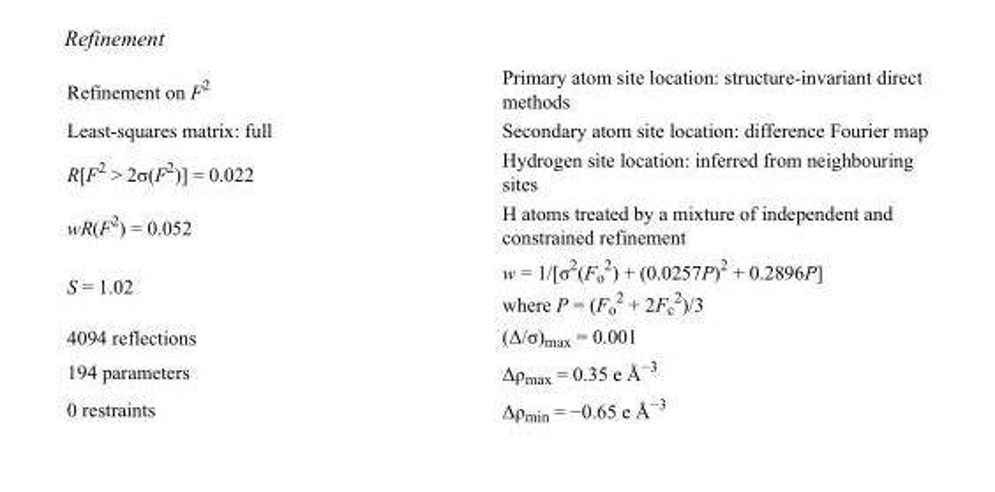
<table><tbody><tr><td>Refinement on F<sup>2</sup></td><td>Primary atom site location: structure-invariant direct methods</td></tr><tr><td>Least-squares matrix: full</td><td>Secondary atom site location: difference Fourier map</td></tr><tr><td>R[F<sup>2</sup> &gt; 2σ(F<sup>2</sup>)] = 0.022</td><td>Hydrogen site location: inferred from neighbouring sites</td></tr><tr><td>wR(F<sup>2</sup>) = 0.052</td><td>H atoms treated by a mixture of independent and constrained refinement</td></tr><tr><td>S = 1.02</td><td>w = 1/[σ<sup>2</sup>(F<sub>o</sub> <sup>2</sup>) + (0.0257P)<sup>2</sup> + 0.2896P] where P = (F<sub>o</sub> <sup>2</sup> + 2F<sub>c</sub> <sup>2</sup>)/3</td></tr><tr><td>4094 reflections</td><td>(Δ/σ)<sub>max</sub> = 0.001</td></tr><tr><td>194 parameters</td><td>Δρ<sub>max</sub> = 0.35 e Å<sup>−3</sup></td></tr><tr><td>0 restraints</td><td>Δρ<sub>min</sub> = −0.65 e Å<sup>−3</sup></td></tr></tbody></table>